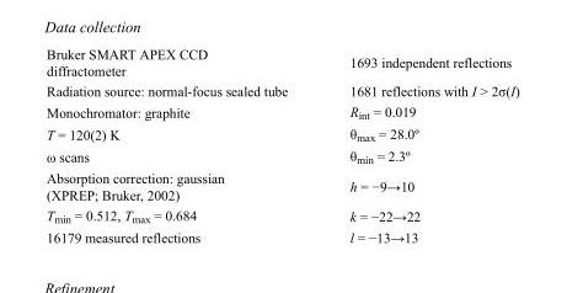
<table><tbody><tr><td>Bruker SMART APEX CCD diffractometer</td><td>1693 independent reflections</td></tr><tr><td>Radiation source: normal-focus sealed tube</td><td>1681 reflections with I &gt; 2σ(I)</td></tr><tr><td>Monochromator: graphite</td><td>R<sub>int</sub> = 0.019</td></tr><tr><td>T = 120(2) K</td><td>θ<sub>max</sub> = 28.0º</td></tr><tr><td>ω scans</td><td>θ<sub>min</sub> = 2.3º</td></tr><tr><td>Absorption correction: gaussian (XPREP; Bruker, 2002)</td><td>h = −9→10</td></tr><tr><td>T<sub>min</sub> = 0.512, T<sub>max</sub> = 0.684</td><td>k = −22→22</td></tr><tr><td>16179 measured reflections</td><td>l = −13→13</td></tr></tbody></table>